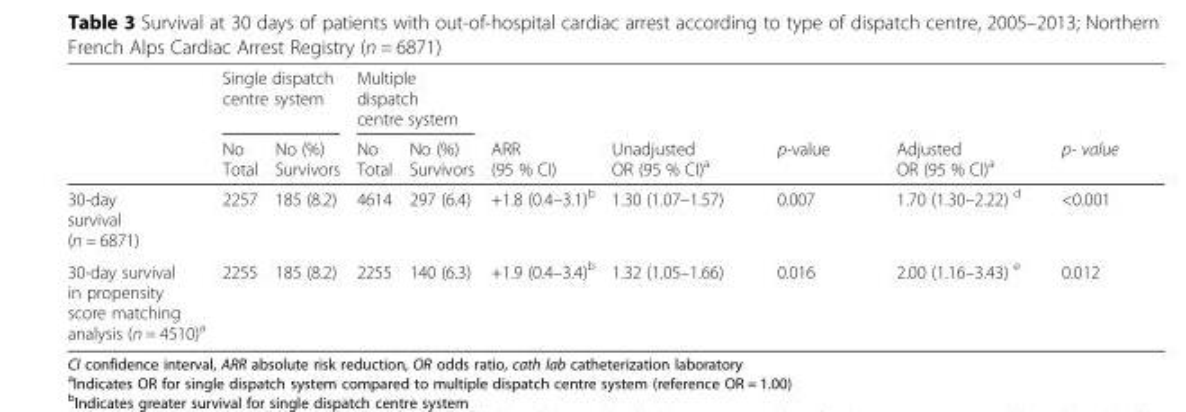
<table><thead><tr><td rowspan="2"></td><td colspan="2">Single dispatch centre system</td><td colspan="2">Multiple dispatch centre system</td><td rowspan="2">ARR (95 % CI)</td><td rowspan="2">Unadjusted OR (95 % CI)<sup>a</sup></td><td rowspan="2">p-value</td><td rowspan="2">Adjusted OR (95 % CI)<sup>a</sup></td><td rowspan="2">p- value</td></tr><tr><td>No Total</td><td>No (%) Survivors</td><td>No Total</td><td>No (%) Survivors</td></tr></thead><tbody><tr><td>30-day survival (n = 6871)</td><td>2257</td><td>185 (8.2)</td><td>4614</td><td>297 (6.4)</td><td>+1.8 (0.4–3.1)<sup>b</sup></td><td>1.30 (1.07–1.57)</td><td>0.007</td><td>1.70 (1.30–2.22) <sup>d</sup></td><td>&lt;0.001</td></tr><tr><td>30-day survival in propensity score matching analysis (n = 4510)<sup>a</sup></td><td>2255</td><td>185 (8.2)</td><td>2255</td><td>140 (6.3)</td><td>+1.9 (0.4–3.4)<sup>b</sup></td><td>1.32 (1.05–1.66)</td><td>0.016</td><td>2.00 (1.16–3.43) <sup>e</sup></td><td>0.012</td></tr></tbody></table>